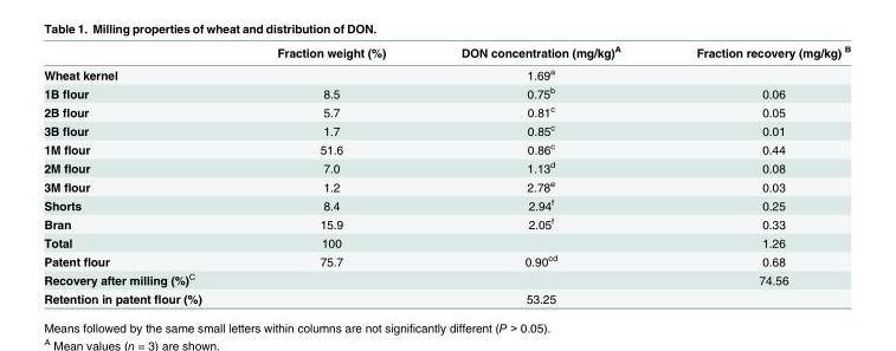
<table><thead><tr><td></td><td>Fraction weight (%)</td><td>DON concentration (mg/kg)<sup>A</sup></td><td>Fraction recovery (mg/kg) <sup>B</sup></td></tr></thead><tbody><tr><td>Wheat kernel</td><td></td><td>1.69<sup>a</sup></td><td></td></tr><tr><td>1B flour</td><td>8.5</td><td>0.75<sup>b</sup></td><td>0.06</td></tr><tr><td>2B flour</td><td>5.7</td><td>0.81<sup>c</sup></td><td>0.05</td></tr><tr><td>3B flour</td><td>1.7</td><td>0.85<sup>c</sup></td><td>0.01</td></tr><tr><td>1M flour</td><td>51.6</td><td>0.86<sup>c</sup></td><td>0.44</td></tr><tr><td>2M flour</td><td>7.0</td><td>1.13<sup>d</sup></td><td>0.08</td></tr><tr><td>3M flour</td><td>1.2</td><td>2.78<sup>e</sup></td><td>0.03</td></tr><tr><td>Shorts</td><td>8.4</td><td>2.94<sup>f</sup></td><td>0.25</td></tr><tr><td>Bran</td><td>15.9</td><td>2.05<sup>f</sup></td><td>0.33</td></tr><tr><td>Total</td><td>100</td><td></td><td>1.26</td></tr><tr><td>Patent flour</td><td>75.7</td><td>0.90<sup>cd</sup></td><td>0.68</td></tr><tr><td>Recovery after milling (%)<sup>C</sup></td><td></td><td></td><td>74.56</td></tr><tr><td>Retention in patent flour (%)</td><td></td><td>53.25</td><td></td></tr></tbody></table>